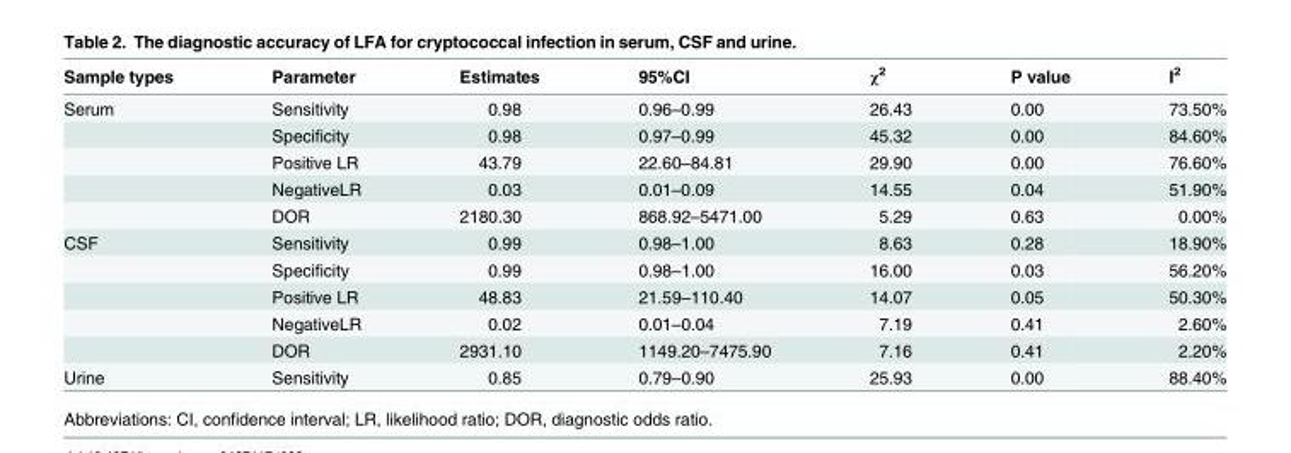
<table><thead><tr><td>Sample types</td><td>Parameter</td><td>Estimates</td><td>95%CI</td><td>χ<sup>2</sup></td><td>P value</td><td>I<sup>2</sup></td></tr></thead><tbody><tr><td rowspan="5">Serum</td><td>Sensitivity</td><td>0.98</td><td>0.96–0.99</td><td>26.43</td><td>0.00</td><td>73.50%</td></tr><tr><td>Specificity</td><td>0.98</td><td>0.97–0.99</td><td>45.32</td><td>0.00</td><td>84.60%</td></tr><tr><td>Positive LR</td><td>43.79</td><td>22.60–84.81</td><td>29.90</td><td>0.00</td><td>76.60%</td></tr><tr><td>NegativeLR</td><td>0.03</td><td>0.01–0.09</td><td>14.55</td><td>0.04</td><td>51.90%</td></tr><tr><td>DOR</td><td>2180.30</td><td>868.92–5471.00</td><td>5.29</td><td>0.63</td><td>0.00%</td></tr><tr><td rowspan="5">CSF</td><td>Sensitivity</td><td>0.99</td><td>0.98–1.00</td><td>8.63</td><td>0.28</td><td>18.90%</td></tr><tr><td>Specificity</td><td>0.99</td><td>0.98–1.00</td><td>16.00</td><td>0.03</td><td>56.20%</td></tr><tr><td>Positive LR</td><td>48.83</td><td>21.59–110.40</td><td>14.07</td><td>0.05</td><td>50.30%</td></tr><tr><td>NegativeLR</td><td>0.02</td><td>0.01–0.04</td><td>7.19</td><td>0.41</td><td>2.60%</td></tr><tr><td>DOR</td><td>2931.10</td><td>1149.20–7475.90</td><td>7.16</td><td>0.41</td><td>2.20%</td></tr><tr><td>Urine</td><td>Sensitivity</td><td>0.85</td><td>0.79–0.90</td><td>25.93</td><td>0.00</td><td>88.40%</td></tr></tbody></table>